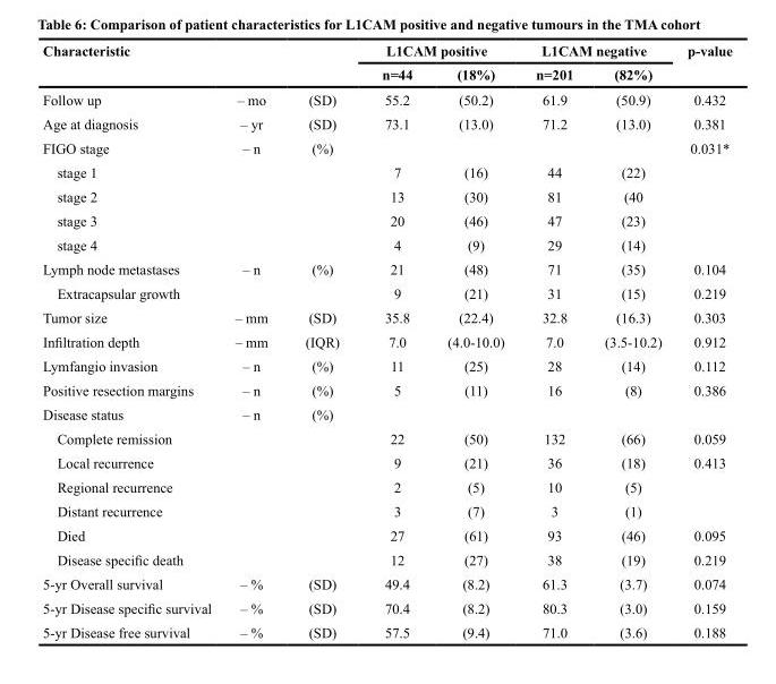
<table><thead><tr><td rowspan="2" colspan="3">Characteristic</td><td colspan="2">L1CAM positive</td><td colspan="2">L1CAM negative</td><td rowspan="3">p-value 0.432</td></tr><tr><td rowspan="2">n=44 55.2</td><td rowspan="2">(18%) (50.2)</td><td rowspan="2">n=201 61.9</td><td rowspan="2">(82%) (50.9)</td></tr><tr><td>Follow up</td><td>– mo</td><td>(SD)</td></tr></thead><tbody><tr><td>Age at diagnosis</td><td>– yr</td><td>(SD)</td><td>73.1</td><td>(13.0)</td><td>71.2</td><td>(13.0)</td><td>0.381</td></tr><tr><td>FIGO stage</td><td>– n</td><td>(%)</td><td></td><td></td><td></td><td></td><td>0.031*</td></tr><tr><td>stage 1</td><td></td><td></td><td>7</td><td>(16)</td><td>44</td><td>(22)</td><td></td></tr><tr><td>stage 2</td><td></td><td></td><td>13</td><td>(30)</td><td>81</td><td>(40</td><td></td></tr><tr><td>stage 3</td><td></td><td></td><td>20</td><td>(46)</td><td>47</td><td>(23)</td><td></td></tr><tr><td>stage 4</td><td></td><td></td><td>4</td><td>(9)</td><td>29</td><td>(14)</td><td></td></tr><tr><td>Lymph node metastases</td><td>– n</td><td>(%)</td><td>21</td><td>(48)</td><td>71</td><td>(35)</td><td>0.104</td></tr><tr><td>Extracapsular growth</td><td></td><td></td><td>9</td><td>(21)</td><td>31</td><td>(15)</td><td>0.219</td></tr><tr><td>Tumor size</td><td>– mm</td><td>(SD)</td><td>35.8</td><td>(22.4)</td><td>32.8</td><td>(16.3)</td><td>0.303</td></tr><tr><td>Infiltration depth</td><td>– mm</td><td>(IQR)</td><td>7.0</td><td>(4.0-10.0)</td><td>7.0</td><td>(3.5-10.2)</td><td>0.912</td></tr><tr><td>Lymfangio invasion</td><td>– n</td><td>(%)</td><td>11</td><td>(25)</td><td>28</td><td>(14)</td><td>0.112</td></tr><tr><td>Positive resection margins</td><td>– n</td><td>(%)</td><td>5</td><td>(11)</td><td>16</td><td>(8)</td><td>0.386</td></tr><tr><td>Disease status</td><td>– n</td><td>(%)</td><td></td><td></td><td></td><td></td><td></td></tr><tr><td>Complete remission</td><td></td><td></td><td>22</td><td>(50)</td><td>132</td><td>(66)</td><td>0.059</td></tr><tr><td>Local recurrence</td><td></td><td></td><td>9</td><td>(21)</td><td>36</td><td>(18)</td><td>0.413</td></tr><tr><td>Regional recurrence</td><td></td><td></td><td>2</td><td>(5)</td><td>10</td><td>(5)</td><td></td></tr><tr><td>Distant recurrence</td><td></td><td></td><td>3</td><td>(7)</td><td>3</td><td>(1)</td><td></td></tr><tr><td>Died</td><td></td><td></td><td>27</td><td>(61)</td><td>93</td><td>(46)</td><td>0.095</td></tr><tr><td>Disease specific death</td><td></td><td></td><td>12</td><td>(27)</td><td>38</td><td>(19)</td><td>0.219</td></tr><tr><td>5-yr Overall survival</td><td>– %</td><td>(SD)</td><td>49.4</td><td>(8.2)</td><td>61.3</td><td>(3.7)</td><td>0.074</td></tr><tr><td>5-yr Disease specific survival</td><td>– %</td><td>(SD)</td><td>70.4</td><td>(8.2)</td><td>80.3</td><td>(3.0)</td><td>0.159</td></tr><tr><td>5-yr Disease free survival</td><td>– %</td><td>(SD)</td><td>57.5</td><td>(9.4)</td><td>71.0</td><td>(3.6)</td><td>0.188</td></tr></tbody></table>